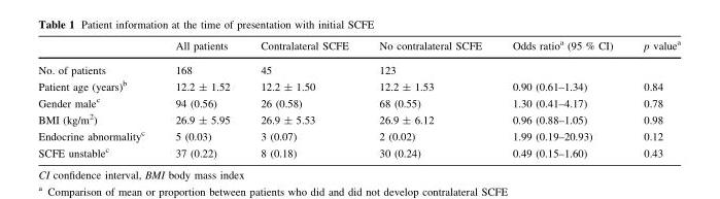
<table><thead><tr><td></td><td>All patients</td><td>Contralateral SCFE</td><td>No contralateral SCFE</td><td>Odds ratio<sup>a</sup> (95 % CI)</td><td>p value<sup>a</sup></td></tr></thead><tbody><tr><td>No. of patients</td><td>168</td><td>45</td><td>123</td><td></td><td></td></tr><tr><td>Patient age (years)<sup>b</sup></td><td>12.2 ± 1.52</td><td>12.2 ± 1.50</td><td>12.2 ± 1.53</td><td>0.90 (0.61–1.34)</td><td>0.84</td></tr><tr><td>Gender male<sup>c</sup></td><td>94 (0.56)</td><td>26 (0.58)</td><td>68 (0.55)</td><td>1.30 (0.41–4.17)</td><td>0.78</td></tr><tr><td>BMI (kg/m<sup>2</sup>)</td><td>26.9 ± 5.95</td><td>26.9 ± 5.53</td><td>26.9 ± 6.12</td><td>0.96 (0.88–1.05)</td><td>0.98</td></tr><tr><td>Endocrine abnormality<sup>c</sup></td><td>5 (0.03)</td><td>3 (0.07)</td><td>2 (0.02)</td><td>1.99 (0.19–20.93)</td><td>0.12</td></tr><tr><td>SCFE unstable<sup>c</sup></td><td>37 (0.22)</td><td>8 (0.18)</td><td>30 (0.24)</td><td>0.49 (0.15–1.60)</td><td>0.43</td></tr></tbody></table>